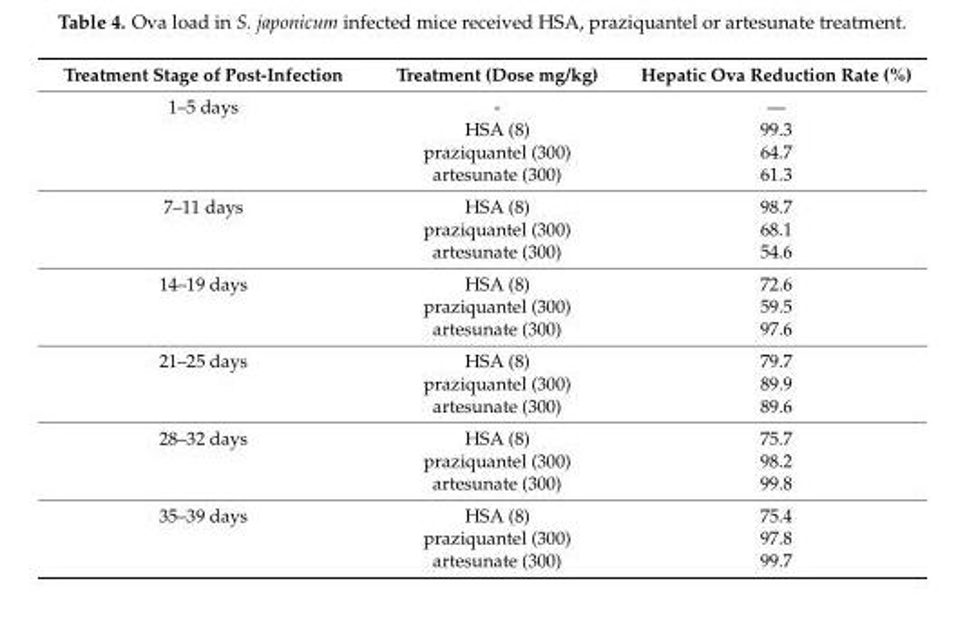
<table><thead><tr><td>Treatment Stage of Post-Infection</td><td>Treatment (Dose mg/kg)</td><td>Hepatic Ova Reduction Rate (%)</td></tr></thead><tbody><tr><td rowspan="4">1–5 days</td><td>-</td><td>—</td></tr><tr><td>HSA (8)</td><td>99.3</td></tr><tr><td>praziquantel (300)</td><td>64.7</td></tr><tr><td>artesunate (300)</td><td>61.3</td></tr><tr><td rowspan="3">7–11 days</td><td>HSA (8)</td><td>98.7</td></tr><tr><td>praziquantel (300)</td><td>68.1</td></tr><tr><td>artesunate (300)</td><td>54.6</td></tr><tr><td rowspan="3">14–19 days</td><td>HSA (8)</td><td>72.6</td></tr><tr><td>praziquantel (300)</td><td>59.5</td></tr><tr><td>artesunate (300)</td><td>97.6</td></tr><tr><td rowspan="3">21–25 days</td><td>HSA (8)</td><td>79.7</td></tr><tr><td>praziquantel (300)</td><td>89.9</td></tr><tr><td>artesunate (300)</td><td>89.6</td></tr><tr><td rowspan="3">28–32 days</td><td>HSA (8)</td><td>75.7</td></tr><tr><td>praziquantel (300)</td><td>98.2</td></tr><tr><td>artesunate (300)</td><td>99.8</td></tr><tr><td rowspan="3">35–39 days</td><td>HSA (8)</td><td>75.4</td></tr><tr><td>praziquantel (300)</td><td>97.8</td></tr><tr><td>artesunate (300)</td><td>99.7</td></tr></tbody></table>